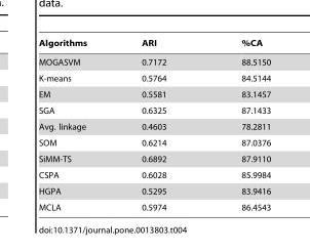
<table><thead><tr><td>Algorithms</td><td>ARI</td><td>%CA</td></tr></thead><tbody><tr><td>MOGASVM</td><td>0.7172</td><td>88.5150</td></tr><tr><td>K-means</td><td>0.5764</td><td>84.5144</td></tr><tr><td>EM</td><td>0.5581</td><td>83.1457</td></tr><tr><td>SGA</td><td>0.6325</td><td>87.1433</td></tr><tr><td>Avg. linkage</td><td>0.4603</td><td>78.2811</td></tr><tr><td>SOM</td><td>0.6214</td><td>87.0376</td></tr><tr><td>SiMM-TS</td><td>0.6892</td><td>87.9110</td></tr><tr><td>CSPA</td><td>0.6028</td><td>85.9984</td></tr><tr><td>HGPA</td><td>0.5295</td><td>83.9416</td></tr><tr><td>MCLA</td><td>0.5974</td><td>86.4543</td></tr></tbody></table>